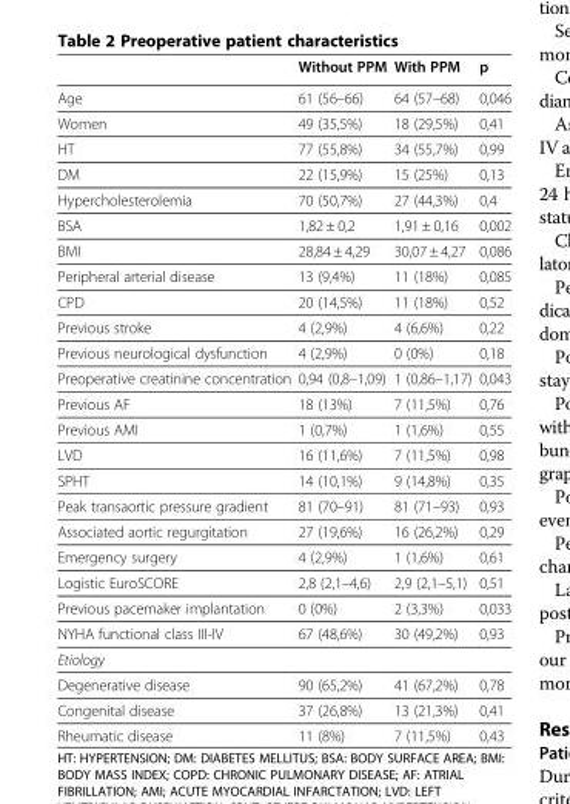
<table><thead><tr><td></td><td>Without PPM</td><td>With PPM</td><td>p</td></tr></thead><tbody><tr><td>Age</td><td>61 (56–66)</td><td>64 (57–68)</td><td>0,046</td></tr><tr><td>Women</td><td>49 (35,5%)</td><td>18 (29,5%)</td><td>0,41</td></tr><tr><td>HT</td><td>77 (55,8%)</td><td>34 (55,7%)</td><td>0,99</td></tr><tr><td>DM</td><td>22 (15,9%)</td><td>15 (25%)</td><td>0,13</td></tr><tr><td>Hypercholesterolemia</td><td>70 (50,7%)</td><td>27 (44,3%)</td><td>0,4</td></tr><tr><td>BSA</td><td>1,82 ± 0,2</td><td>1,91 ± 0,16</td><td>0,002</td></tr><tr><td>BMI</td><td>28,84 ± 4,29</td><td>30,07 ± 4,27</td><td>0,086</td></tr><tr><td>Peripheral arterial disease</td><td>13 (9,4%)</td><td>11 (18%)</td><td>0,085</td></tr><tr><td>CPD</td><td>20 (14,5%)</td><td>11 (18%)</td><td>0,52</td></tr><tr><td>Previous stroke</td><td>4 (2,9%)</td><td>4 (6,6%)</td><td>0,22</td></tr><tr><td>Previous neurological dysfunction</td><td>4 (2,9%)</td><td>0 (0%)</td><td>0,18</td></tr><tr><td>Preoperative creatinine concentration</td><td>0,94 (0,8–1,09)</td><td>1 (0,86–1,17)</td><td>0,043</td></tr><tr><td>Previous AF</td><td>18 (13%)</td><td>7 (11,5%)</td><td>0,76</td></tr><tr><td>Previous AMI</td><td>1 (0,7%)</td><td>1 (1,6%)</td><td>0,55</td></tr><tr><td>LVD</td><td>16 (11,6%)</td><td>7 (11,5%)</td><td>0,98</td></tr><tr><td>SPHT</td><td>14 (10,1%)</td><td>9 (14,8%)</td><td>0,35</td></tr><tr><td>Peak transaortic pressure gradient</td><td>81 (70–91)</td><td>81 (71–93)</td><td>0,93</td></tr><tr><td>Associated aortic regurgitation</td><td>27 (19,6%)</td><td>16 (26,2%)</td><td>0,29</td></tr><tr><td>Emergency surgery</td><td>4 (2,9%)</td><td>1 (1,6%)</td><td>0,61</td></tr><tr><td>Logistic EuroSCORE</td><td>2,8 (2,1–4,6)</td><td>2,9 (2,1–5,1)</td><td>0,51</td></tr><tr><td>Previous pacemaker implantation</td><td>0 (0%)</td><td>2 (3,3%)</td><td>0,033</td></tr><tr><td>NYHA functional class III-IV</td><td>67 (48,6%)</td><td>30 (49,2%)</td><td>0,93</td></tr><tr><td colspan="4">Etiology</td></tr><tr><td>Degenerative disease</td><td>90 (65,2%)</td><td>41 (67,2%)</td><td>0,78</td></tr><tr><td>Congenital disease</td><td>37 (26,8%)</td><td>13 (21,3%)</td><td>0,41</td></tr><tr><td>Rheumatic disease</td><td>11 (8%)</td><td>7 (11,5%)</td><td>0,43</td></tr></tbody></table>